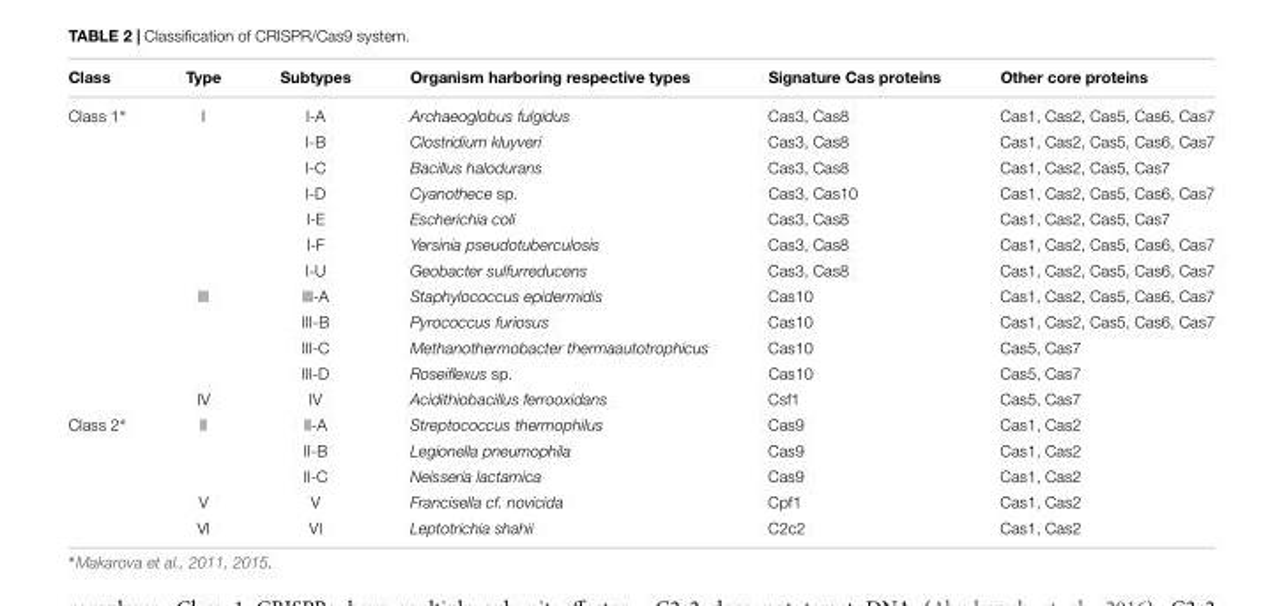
<table><thead><tr><td>Class</td><td>Type</td><td>Subtypes</td><td>Organism harboring respective types</td><td>Signature Cas proteins</td><td>Other core proteins</td></tr></thead><tbody><tr><td rowspan="12">Class 1∗</td><td>I</td><td>I-A</td><td>Archaeoglobus fulgidus</td><td>Cas3, Cas8</td><td>Cas1, Cas2, Cas5, Cas6, Cas7</td></tr><tr><td></td><td>I-B</td><td>Clostridium kluyveri</td><td>Cas3, Cas8</td><td>Cas1, Cas2, Cas5, Cas6, Cas7</td></tr><tr><td></td><td>I-C</td><td>Bacillus halodurans</td><td>Cas3, Cas8</td><td>Cas1, Cas2, Cas5, Cas7</td></tr><tr><td></td><td>I-D</td><td>Cyanothece sp.</td><td>Cas3, Cas10</td><td>Cas1, Cas2, Cas5, Cas6, Cas7</td></tr><tr><td></td><td>I-E</td><td>Escherichia coli</td><td>Cas3, Cas8</td><td>Cas1, Cas2, Cas5, Cas7</td></tr><tr><td></td><td>I-F</td><td>Yersinia pseudotuberculosis</td><td>Cas3, Cas8</td><td>Cas1, Cas2, Cas5, Cas6, Cas7</td></tr><tr><td></td><td>I-U</td><td>Geobacter sulfurreducens</td><td>Cas3, Cas8</td><td>Cas1, Cas2, Cas5, Cas6, Cas7</td></tr><tr><td>III</td><td>III-A</td><td>Staphylococcus epidermidis</td><td>Cas10</td><td>Cas1, Cas2, Cas5, Cas6, Cas7</td></tr><tr><td></td><td>III-B</td><td>Pyrococcus furiosus</td><td>Cas10</td><td>Cas1, Cas2, Cas5, Cas6, Cas7</td></tr><tr><td></td><td>III-C</td><td>Methanothermobacter thermaautotrophicus</td><td>Cas10</td><td>Cas5, Cas7</td></tr><tr><td></td><td>III-D</td><td>Roseiflexus sp.</td><td>Cas10</td><td>Cas5, Cas7</td></tr><tr><td>IV</td><td>IV</td><td>Acidithiobacillus ferrooxidans</td><td>Csf1</td><td>Cas5, Cas7</td></tr><tr><td rowspan="5">Class 2∗</td><td>II</td><td>II-A</td><td>Streptococcus thermophilus</td><td>Cas9</td><td>Cas1, Cas2</td></tr><tr><td></td><td>II-B</td><td>Legionella pneumophila</td><td>Cas9</td><td>Cas1, Cas2</td></tr><tr><td></td><td>II-C</td><td>Neisseria lactamica</td><td>Cas9</td><td>Cas1, Cas2</td></tr><tr><td>V</td><td>V</td><td>Francisella cf. novicida</td><td>Cpf1</td><td>Cas1, Cas2</td></tr><tr><td>VI</td><td>VI</td><td>Leptotrichia shahii</td><td>C2c2</td><td>Cas1, Cas2</td></tr></tbody></table>